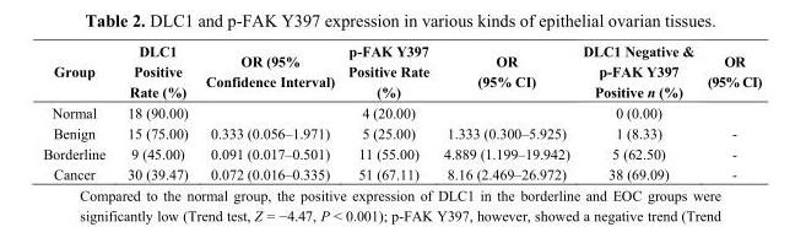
<table><thead><tr><td>Group</td><td>DLC1 Positive Rate (%)</td><td>OR (95% Confidence Interval)</td><td>p-FAK Y397 Positive Rate (%)</td><td>OR (95% CI)</td><td>DLC1 Negative &amp; p-FAK Y397 Positive n (%)</td><td>OR (95% CI)</td></tr></thead><tbody><tr><td>Normal</td><td>18 (90.00)</td><td></td><td>4 (20.00)</td><td></td><td>0 (0.00)</td><td></td></tr><tr><td>Benign</td><td>15 (75.00)</td><td>0.333 (0.056–1.971)</td><td>5 (25.00)</td><td>1.333 (0.300–5.925)</td><td>1 (8.33)</td><td>-</td></tr><tr><td>Borderline</td><td>9 (45.00)</td><td>0.091 (0.017–0.501)</td><td>11 (55.00)</td><td>4.889 (1.199–19.942)</td><td>5 (62.50)</td><td>-</td></tr><tr><td>Cancer</td><td>30 (39.47)</td><td>0.072 (0.016–0.335)</td><td>51 (67.11)</td><td>8.16 (2.469–26.972)</td><td>38 (69.09)</td><td>-</td></tr></tbody></table>